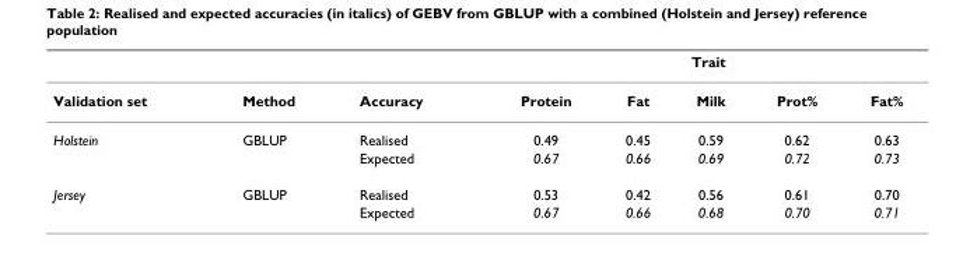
<table><thead><tr><td rowspan="2">Validation set</td><td rowspan="2">Method</td><td rowspan="2">Accuracy</td><td colspan="5">Trait</td></tr><tr><td>Protein</td><td>Fat</td><td>Milk</td><td>Prot%</td><td>Fat%</td></tr></thead><tbody><tr><td rowspan="2">Holstein</td><td>GBLUP</td><td>Realised</td><td>0.49</td><td>0.45</td><td>0.59</td><td>0.62</td><td>0.63</td></tr><tr><td></td><td>Expected</td><td>0.67</td><td>0.66</td><td>0.69</td><td>0.72</td><td>0.73</td></tr><tr><td rowspan="2">Jersey</td><td>GBLUP</td><td>Realised</td><td>0.53</td><td>0.42</td><td>0.56</td><td>0.61</td><td>0.70</td></tr><tr><td></td><td>Expected</td><td>0.67</td><td>0.66</td><td>0.68</td><td>0.70</td><td>0.71</td></tr></tbody></table>